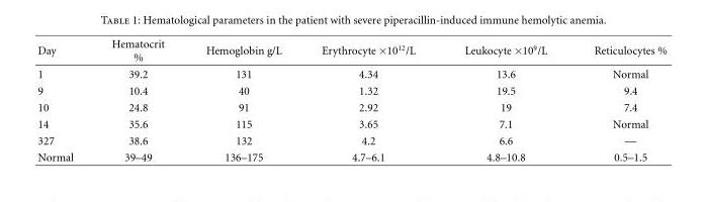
<table><thead><tr><td>Day</td><td>Hematocrit %</td><td>Hemoglobin g/L</td><td>Erythrocyte ×10<sup>12</sup>/L</td><td>Leukocyte ×10<sup>9</sup>/L</td><td>Reticulocytes %</td></tr></thead><tbody><tr><td>1</td><td>39.2</td><td>131</td><td>4.34</td><td>13.6</td><td>Normal</td></tr><tr><td>9</td><td>10.4</td><td>40</td><td>1.32</td><td>19.5</td><td>9.4</td></tr><tr><td>10</td><td>24.8</td><td>91</td><td>2.92</td><td>19</td><td>7.4</td></tr><tr><td>14</td><td>35.6</td><td>115</td><td>3.65</td><td>7.1</td><td>Normal</td></tr><tr><td>327</td><td>38.6</td><td>132</td><td>4.2</td><td>6.6</td><td>—</td></tr><tr><td>Normal</td><td>39–49</td><td>136–175</td><td>4.7–6.1</td><td>4.8–10.8</td><td>0.5–1.5</td></tr></tbody></table>